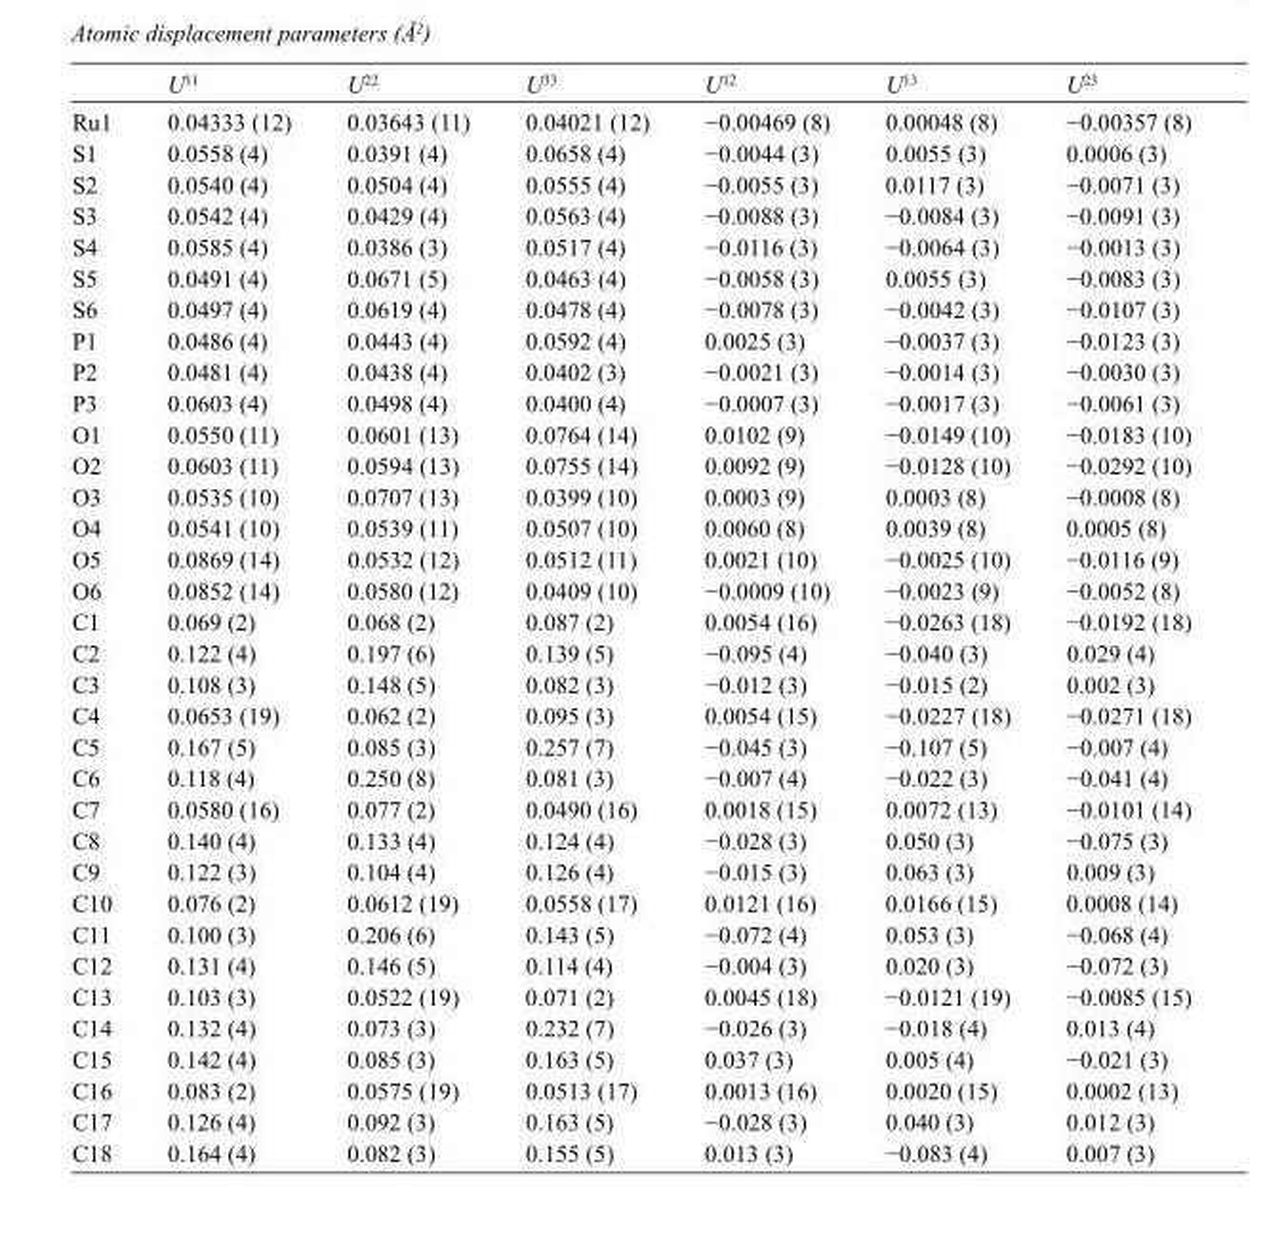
<table><thead><tr><td></td><td>U<sup>11</sup></td><td>U<sup>22</sup></td><td>U<sup>33</sup></td><td>U<sup>12</sup></td><td>U<sup>13</sup></td><td>U<sup>23</sup></td></tr></thead><tbody><tr><td>Ru1</td><td>0.04333 (12)</td><td>0.03643 (11)</td><td>0.04021 (12)</td><td>−0.00469 (8)</td><td>0.00048 (8)</td><td>−0.00357 (8)</td></tr><tr><td>S1</td><td>0.0558 (4)</td><td>0.0391 (4)</td><td>0.0658 (4)</td><td>−0.0044 (3)</td><td>0.0055 (3)</td><td>0.0006 (3)</td></tr><tr><td>S2</td><td>0.0540 (4)</td><td>0.0504 (4)</td><td>0.0555 (4)</td><td>−0.0055 (3)</td><td>0.0117 (3)</td><td>−0.0071 (3)</td></tr><tr><td>S3</td><td>0.0542 (4)</td><td>0.0429 (4)</td><td>0.0563 (4)</td><td>−0.0088 (3)</td><td>−0.0084 (3)</td><td>−0.0091 (3)</td></tr><tr><td>S4</td><td>0.0585 (4)</td><td>0.0386 (3)</td><td>0.0517 (4)</td><td>−0.0116 (3)</td><td>−0.0064 (3)</td><td>−0.0013 (3)</td></tr><tr><td>S5</td><td>0.0491 (4)</td><td>0.0671 (5)</td><td>0.0463 (4)</td><td>−0.0058 (3)</td><td>0.0055 (3)</td><td>−0.0083 (3)</td></tr><tr><td>S6</td><td>0.0497 (4)</td><td>0.0619 (4)</td><td>0.0478 (4)</td><td>−0.0078 (3)</td><td>−0.0042 (3)</td><td>−0.0107 (3)</td></tr><tr><td>P1</td><td>0.0486 (4)</td><td>0.0443 (4)</td><td>0.0592 (4)</td><td>0.0025 (3)</td><td>−0.0037 (3)</td><td>−0.0123 (3)</td></tr><tr><td>P2</td><td>0.0481 (4)</td><td>0.0438 (4)</td><td>0.0402 (3)</td><td>−0.0021 (3)</td><td>−0.0014 (3)</td><td>−0.0030 (3)</td></tr><tr><td>P3</td><td>0.0603 (4)</td><td>0.0498 (4)</td><td>0.0400 (4)</td><td>−0.0007 (3)</td><td>−0.0017 (3)</td><td>−0.0061 (3)</td></tr><tr><td>O1</td><td>0.0550 (11)</td><td>0.0601 (13)</td><td>0.0764 (14)</td><td>0.0102 (9)</td><td>−0.0149 (10)</td><td>−0.0183 (10)</td></tr><tr><td>O2</td><td>0.0603 (11)</td><td>0.0594 (13)</td><td>0.0755 (14)</td><td>0.0092 (9)</td><td>−0.0128 (10)</td><td>−0.0292 (10)</td></tr><tr><td>O3</td><td>0.0535 (10)</td><td>0.0707 (13)</td><td>0.0399 (10)</td><td>0.0003 (9)</td><td>0.0003 (8)</td><td>−0.0008 (8)</td></tr><tr><td>O4</td><td>0.0541 (10)</td><td>0.0539 (11)</td><td>0.0507 (10)</td><td>0.0060 (8)</td><td>0.0039 (8)</td><td>0.0005 (8)</td></tr><tr><td>O5</td><td>0.0869 (14)</td><td>0.0532 (12)</td><td>0.0512 (11)</td><td>0.0021 (10)</td><td>−0.0025 (10)</td><td>−0.0116 (9)</td></tr><tr><td>O6</td><td>0.0852 (14)</td><td>0.0580 (12)</td><td>0.0409 (10)</td><td>−0.0009 (10)</td><td>−0.0023 (9)</td><td>−0.0052 (8)</td></tr><tr><td>C1</td><td>0.069 (2)</td><td>0.068 (2)</td><td>0.087 (2)</td><td>0.0054 (16)</td><td>−0.0263 (18)</td><td>−0.0192 (18)</td></tr><tr><td>C2</td><td>0.122 (4)</td><td>0.197 (6)</td><td>0.139 (5)</td><td>−0.095 (4)</td><td>−0.040 (3)</td><td>0.029 (4)</td></tr><tr><td>C3</td><td>0.108 (3)</td><td>0.148 (5)</td><td>0.082 (3)</td><td>−0.012 (3)</td><td>−0.015 (2)</td><td>0.002 (3)</td></tr><tr><td>C4</td><td>0.0653 (19)</td><td>0.062 (2)</td><td>0.095 (3)</td><td>0.0054 (15)</td><td>−0.0227 (18)</td><td>−0.0271 (18)</td></tr><tr><td>C5</td><td>0.167 (5)</td><td>0.085 (3)</td><td>0.257 (7)</td><td>−0.045 (3)</td><td>−0.107 (5)</td><td>−0.007 (4)</td></tr><tr><td>C6</td><td>0.118 (4)</td><td>0.250 (8)</td><td>0.081 (3)</td><td>−0.007 (4)</td><td>−0.022 (3)</td><td>−0.041 (4)</td></tr><tr><td>C7</td><td>0.0580 (16)</td><td>0.077 (2)</td><td>0.0490 (16)</td><td>0.0018 (15)</td><td>0.0072 (13)</td><td>−0.0101 (14)</td></tr><tr><td>C8</td><td>0.140 (4)</td><td>0.133 (4)</td><td>0.124 (4)</td><td>−0.028 (3)</td><td>0.050 (3)</td><td>−0.075 (3)</td></tr><tr><td>C9</td><td>0.122 (3)</td><td>0.104 (4)</td><td>0.126 (4)</td><td>−0.015 (3)</td><td>0.063 (3)</td><td>0.009 (3)</td></tr><tr><td>C10</td><td>0.076 (2)</td><td>0.0612 (19)</td><td>0.0558 (17)</td><td>0.0121 (16)</td><td>0.0166 (15)</td><td>0.0008 (14)</td></tr><tr><td>C11</td><td>0.100 (3)</td><td>0.206 (6)</td><td>0.143 (5)</td><td>−0.072 (4)</td><td>0.053 (3)</td><td>−0.068 (4)</td></tr><tr><td>C12</td><td>0.131 (4)</td><td>0.146 (5)</td><td>0.114 (4)</td><td>−0.004 (3)</td><td>0.020 (3)</td><td>−0.072 (3)</td></tr><tr><td>C13</td><td>0.103 (3)</td><td>0.0522 (19)</td><td>0.071 (2)</td><td>0.0045 (18)</td><td>−0.0121 (19)</td><td>−0.0085 (15)</td></tr><tr><td>C14</td><td>0.132 (4)</td><td>0.073 (3)</td><td>0.232 (7)</td><td>−0.026 (3)</td><td>−0.018 (4)</td><td>0.013 (4)</td></tr><tr><td>C15</td><td>0.142 (4)</td><td>0.085 (3)</td><td>0.163 (5)</td><td>0.037 (3)</td><td>0.005 (4)</td><td>−0.021 (3)</td></tr><tr><td>C16</td><td>0.083 (2)</td><td>0.0575 (19)</td><td>0.0513 (17)</td><td>0.0013 (16)</td><td>0.0020 (15)</td><td>0.0002 (13)</td></tr><tr><td>C17</td><td>0.126 (4)</td><td>0.092 (3)</td><td>0.163 (5)</td><td>−0.028 (3)</td><td>0.040 (3)</td><td>0.012 (3)</td></tr><tr><td>C18</td><td>0.164 (4)</td><td>0.082 (3)</td><td>0.155 (5)</td><td>0.013 (3)</td><td>−0.083 (4)</td><td>0.007 (3)</td></tr></tbody></table>